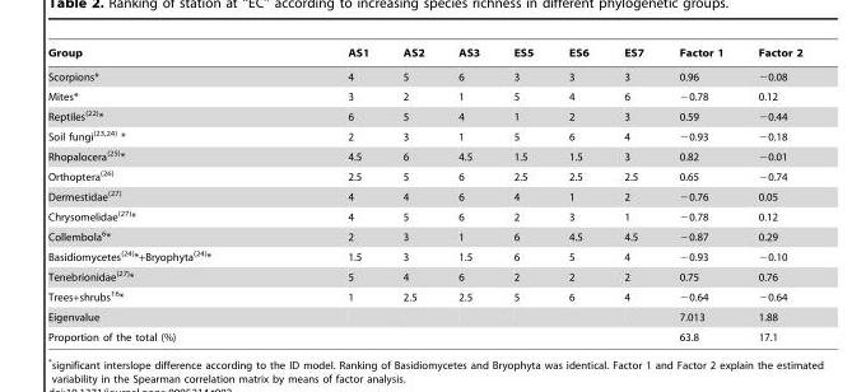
<table><thead><tr><td>Group</td><td>AS1</td><td>AS2</td><td>AS3</td><td>ES5</td><td>ES6</td><td>ES7</td><td>Factor 1</td><td>Factor 2</td></tr></thead><tbody><tr><td>Scorpions*</td><td>4</td><td>5</td><td>6</td><td>3</td><td>3</td><td>3</td><td>0.96</td><td>−0.08</td></tr><tr><td>Mites*</td><td>3</td><td>2</td><td>1</td><td>5</td><td>4</td><td>6</td><td>−0.78</td><td>0.12</td></tr><tr><td>Reptiles<sup>(22)</sup>*</td><td>6</td><td>5</td><td>4</td><td>1</td><td>2</td><td>3</td><td>0.59</td><td>−0.44</td></tr><tr><td>Soil fungi<sup>(23,24)</sup> *</td><td>2</td><td>3</td><td>1</td><td>5</td><td>6</td><td>4</td><td>−0.93</td><td>−0.18</td></tr><tr><td>Rhopalocera<sup>(25)</sup>*</td><td>4.5</td><td>6</td><td>4.5</td><td>1.5</td><td>1.5</td><td>3</td><td>0.82</td><td>−0.01</td></tr><tr><td>Orthoptera<sup>(26)</sup></td><td>2.5</td><td>5</td><td>6</td><td>2.5</td><td>2.5</td><td>2.5</td><td>0.65</td><td>−0.74</td></tr><tr><td>Dermestidae<sup>(27)</sup></td><td>4</td><td>4</td><td>6</td><td>4</td><td>1</td><td>2</td><td>−0.76</td><td>0.05</td></tr><tr><td>Chrysomelidae<sup>(27)</sup>*</td><td>4</td><td>5</td><td>6</td><td>2</td><td>3</td><td>1</td><td>−0.78</td><td>0.12</td></tr><tr><td>Collembola<sup>6</sup>*</td><td>2</td><td>3</td><td>1</td><td>6</td><td>4.5</td><td>4.5</td><td>−0.87</td><td>0.29</td></tr><tr><td>Basidiomycetes<sup>(24)</sup>*+Bryophyta<sup>(24)</sup>*</td><td>1.5</td><td>3</td><td>1.5</td><td>6</td><td>5</td><td>4</td><td>−0.93</td><td>−0.10</td></tr><tr><td>Tenebrionidae<sup>(27)</sup>*</td><td>5</td><td>4</td><td>6</td><td>2</td><td>2</td><td>2</td><td>0.75</td><td>0.76</td></tr><tr><td>Trees+shrubs<sup>16</sup>*</td><td>1</td><td>2.5</td><td>2.5</td><td>5</td><td>6</td><td>4</td><td>−0.64</td><td>−0.64</td></tr><tr><td>Eigenvalue</td><td></td><td></td><td></td><td></td><td></td><td></td><td>7.013</td><td>1.88</td></tr><tr><td>Proportion of the total (%)</td><td></td><td></td><td></td><td></td><td></td><td></td><td>63.8</td><td>17.1</td></tr></tbody></table>